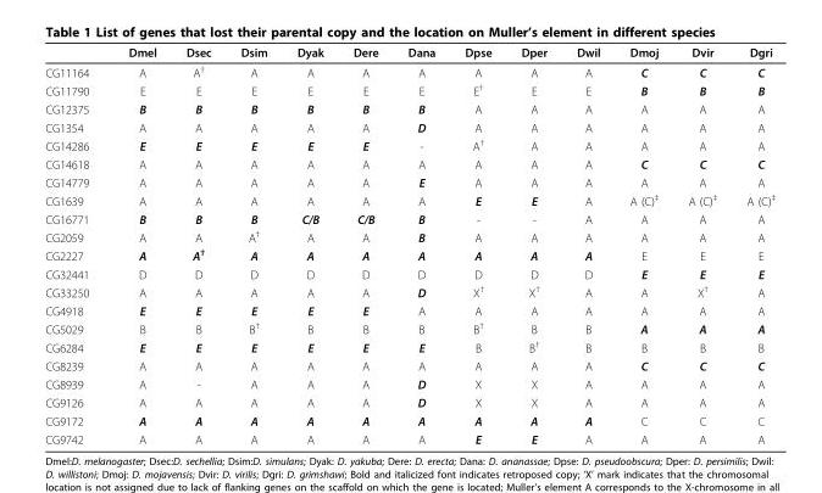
<table><thead><tr><td></td><td>Dmel</td><td>Dsec</td><td>Dsim</td><td>Dyak</td><td>Dere</td><td>Dana</td><td>Dpse</td><td>Dper</td><td>Dwil</td><td>Dmoj</td><td>Dvir</td><td>Dgri</td></tr></thead><tbody><tr><td>CG11164</td><td>A</td><td>A<sup>†</sup></td><td>A</td><td>A</td><td>A</td><td>A</td><td>A</td><td>A</td><td>A</td><td>C</td><td>C</td><td>C</td></tr><tr><td>CG11790</td><td>E</td><td>E</td><td>E</td><td>E</td><td>E</td><td>E</td><td>E<sup>†</sup></td><td>E</td><td>E</td><td>B</td><td>B</td><td>B</td></tr><tr><td>CG12375</td><td>B</td><td>B</td><td>B</td><td>B</td><td>B</td><td>B</td><td>A</td><td>A</td><td>A</td><td>A</td><td>A</td><td>A</td></tr><tr><td>CG1354</td><td>A</td><td>A</td><td>A</td><td>A</td><td>A</td><td>D</td><td>A</td><td>A</td><td>A</td><td>A</td><td>A</td><td>A</td></tr><tr><td>CG14286</td><td>E</td><td>E</td><td>E</td><td>E</td><td>E</td><td>-</td><td>A<sup>†</sup></td><td>A</td><td>A</td><td>A</td><td>A</td><td>A</td></tr><tr><td>CG14618</td><td>A</td><td>A</td><td>A</td><td>A</td><td>A</td><td>A</td><td>A</td><td>A</td><td>A</td><td>C</td><td>C</td><td>C</td></tr><tr><td>CG14779</td><td>A</td><td>A</td><td>A</td><td>A</td><td>A</td><td>E</td><td>A</td><td>A</td><td>A</td><td>A</td><td>A</td><td>A</td></tr><tr><td>CG1639</td><td>A</td><td>A</td><td>A</td><td>A</td><td>A</td><td>A</td><td>E</td><td>E</td><td>A</td><td>A (C)<sup>‡</sup></td><td>A (C)<sup>‡</sup></td><td>A (C)<sup>‡</sup></td></tr><tr><td>CG16771</td><td>B</td><td>B</td><td>B</td><td>C/B</td><td>C/B</td><td>B</td><td>-</td><td>-</td><td>A</td><td>A</td><td>A</td><td>A</td></tr><tr><td>CG2059</td><td>A</td><td>A</td><td>A<sup>†</sup></td><td>A</td><td>A</td><td>B</td><td>A</td><td>A</td><td>A</td><td>A</td><td>A</td><td>A</td></tr><tr><td>CG2227</td><td>A</td><td>A<sup>†</sup></td><td>A</td><td>A</td><td>A</td><td>A</td><td>A</td><td>A</td><td>A</td><td>E</td><td>E</td><td>E</td></tr><tr><td>CG32441</td><td>D</td><td>D</td><td>D</td><td>D</td><td>D</td><td>D</td><td>D</td><td>D</td><td>D</td><td>E</td><td>E</td><td>E</td></tr><tr><td>CG33250</td><td>A</td><td>A</td><td>A</td><td>A</td><td>A</td><td>D</td><td>X<sup>†</sup></td><td>X<sup>†</sup></td><td>A</td><td>A</td><td>X<sup>†</sup></td><td>A</td></tr><tr><td>CG4918</td><td>E</td><td>E</td><td>E</td><td>E</td><td>E</td><td>A</td><td>A</td><td>A</td><td>A</td><td>A</td><td>A</td><td>A</td></tr><tr><td>CG5029</td><td>B</td><td>B</td><td>B<sup>†</sup></td><td>B</td><td>B</td><td>B</td><td>B<sup>†</sup></td><td>B</td><td>B</td><td>A</td><td>A</td><td>A</td></tr><tr><td>CG6284</td><td>E</td><td>E</td><td>E</td><td>E</td><td>E</td><td>E</td><td>B</td><td>B<sup>†</sup></td><td>B</td><td>B</td><td>B</td><td>B</td></tr><tr><td>CG8239</td><td>A</td><td>A</td><td>A</td><td>A</td><td>A</td><td>A</td><td>A</td><td>A</td><td>A</td><td>C</td><td>C</td><td>C</td></tr><tr><td>CG8939</td><td>A</td><td>-</td><td>A</td><td>A</td><td>A</td><td>D</td><td>X</td><td>X</td><td>A</td><td>A</td><td>A</td><td>A</td></tr><tr><td>CG9126</td><td>A</td><td>A</td><td>A</td><td>A</td><td>A</td><td>D</td><td>X</td><td>X</td><td>A</td><td>A</td><td>A</td><td>A</td></tr><tr><td>CG9172</td><td>A</td><td>A</td><td>A</td><td>A</td><td>A</td><td>A</td><td>A</td><td>A</td><td>A</td><td>C</td><td>C</td><td>C</td></tr><tr><td>CG9742</td><td>A</td><td>A</td><td>A</td><td>A</td><td>A</td><td>A</td><td>E</td><td>E</td><td>A</td><td>A</td><td>A</td><td>A</td></tr></tbody></table>